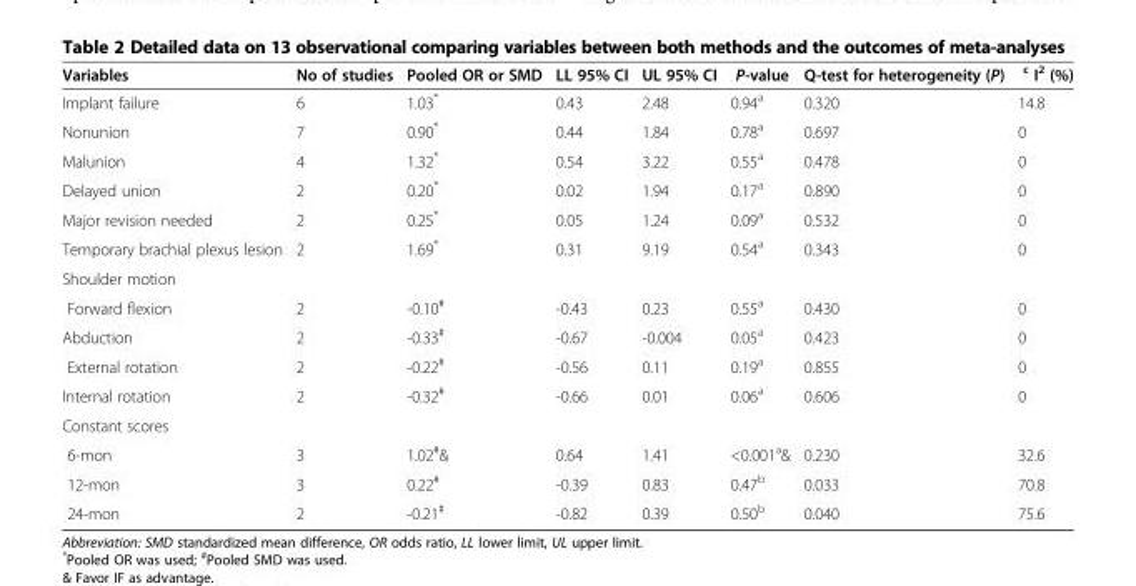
<table><thead><tr><td>Variables</td><td>No of studies</td><td>Pooled OR or SMD</td><td>LL 95% CI</td><td>UL 95% CI</td><td>P-value</td><td>Q-test for heterogeneity (P)</td><td><sup>c</sup> I<sup>2</sup> (%)</td></tr></thead><tbody><tr><td>Implant failure</td><td>6</td><td>1.03*</td><td>0.43</td><td>2.48</td><td>0.94<sup>a</sup></td><td>0.320</td><td>14.8</td></tr><tr><td>Nonunion</td><td>7</td><td>0.90*</td><td>0.44</td><td>1.84</td><td>0.78<sup>a</sup></td><td>0.697</td><td>0</td></tr><tr><td>Malunion</td><td>4</td><td>1.32*</td><td>0.54</td><td>3.22</td><td>0.55<sup>a</sup></td><td>0.478</td><td>0</td></tr><tr><td>Delayed union</td><td>2</td><td>0.20*</td><td>0.02</td><td>1.94</td><td>0.17<sup>a</sup></td><td>0.890</td><td>0</td></tr><tr><td>Major revision needed</td><td>2</td><td>0.25*</td><td>0.05</td><td>1.24</td><td>0.09<sup>a</sup></td><td>0.532</td><td>0</td></tr><tr><td>Temporary brachial plexus lesion</td><td>2</td><td>1.69*</td><td>0.31</td><td>9.19</td><td>0.54<sup>a</sup></td><td>0.343</td><td>0</td></tr><tr><td colspan="8">Shoulder motion</td></tr><tr><td>Forward flexion</td><td>2</td><td>-0.10<sup>#</sup></td><td>-0.43</td><td>0.23</td><td>0.55<sup>a</sup></td><td>0.430</td><td>0</td></tr><tr><td>Abduction</td><td>2</td><td>-0.33<sup>#</sup></td><td>-0.67</td><td>-0.004</td><td>0.05<sup>a</sup></td><td>0.423</td><td>0</td></tr><tr><td>External rotation</td><td>2</td><td>-0.22<sup>#</sup></td><td>-0.56</td><td>0.11</td><td>0.19<sup>a</sup></td><td>0.855</td><td>0</td></tr><tr><td>Internal rotation</td><td>2</td><td>-0.32<sup>#</sup></td><td>-0.66</td><td>0.01</td><td>0.06<sup>a</sup></td><td>0.606</td><td>0</td></tr><tr><td colspan="8">Constant scores</td></tr><tr><td>6-mon</td><td>3</td><td>1.02<sup>#</sup>&amp;</td><td>0.64</td><td>1.41</td><td>&lt;0.001<sup>a</sup>&amp;</td><td>0.230</td><td>32.6</td></tr><tr><td>12-mon</td><td>3</td><td>0.22<sup>#</sup></td><td>-0.39</td><td>0.83</td><td>0.47<sup>b</sup></td><td>0.033</td><td>70.8</td></tr><tr><td>24-mon</td><td>2</td><td>-0.21<sup>#</sup></td><td>-0.82</td><td>0.39</td><td>0.50<sup>b</sup></td><td>0.040</td><td>75.6</td></tr></tbody></table>